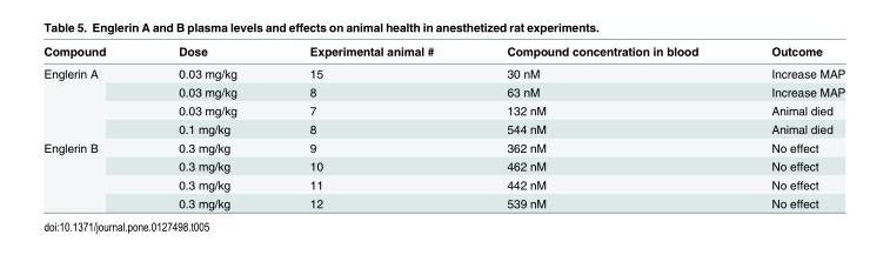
<table><thead><tr><td>Compound</td><td>Dose</td><td>Experimental animal #</td><td>Compound concentration in blood</td><td>Outcome</td></tr></thead><tbody><tr><td rowspan="4">Englerin A</td><td>0.03 mg/kg</td><td>15</td><td>30 nM</td><td>Increase MAP</td></tr><tr><td>0.03 mg/kg</td><td>8</td><td>63 nM</td><td>Increase MAP</td></tr><tr><td>0.03 mg/kg</td><td>7</td><td>132 nM</td><td>Animal died</td></tr><tr><td>0.1 mg/kg</td><td>8</td><td>544 nM</td><td>Animal died</td></tr><tr><td rowspan="4">Englerin B</td><td>0.3 mg/kg</td><td>9</td><td>362 nM</td><td>No effect</td></tr><tr><td>0.3 mg/kg</td><td>10</td><td>462 nM</td><td>No effect</td></tr><tr><td>0.3 mg/kg</td><td>11</td><td>442 nM</td><td>No effect</td></tr><tr><td>0.3 mg/kg</td><td>12</td><td>539 nM</td><td>No effect</td></tr></tbody></table>